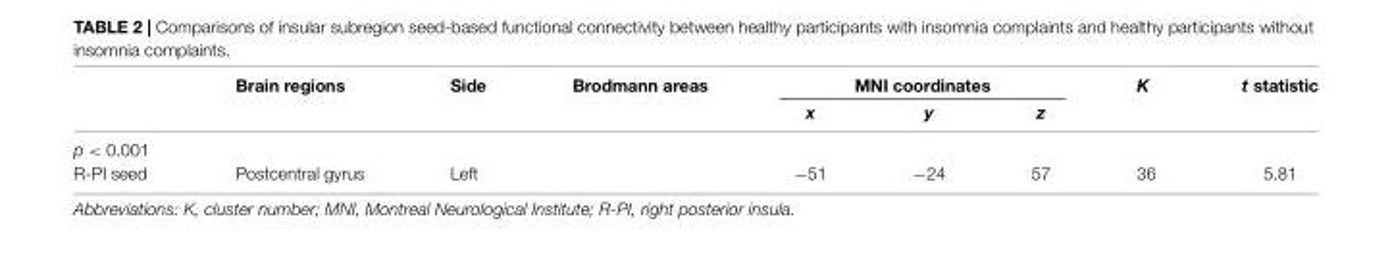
<table><thead><tr><td rowspan="2"></td><td rowspan="2">Brain regions</td><td rowspan="2">Side</td><td rowspan="2">Brodmann areas</td><td colspan="3">MNI coordinates</td><td rowspan="2">K</td><td rowspan="2">t statistic</td></tr><tr><td>x</td><td>y</td><td>z</td></tr></thead><tbody><tr><td colspan="9">p &lt; 0.001</td></tr><tr><td>R-PI seed</td><td>Postcentral gyrus</td><td>Left</td><td></td><td>−51</td><td>−24</td><td>57</td><td>36</td><td>5.81</td></tr></tbody></table>